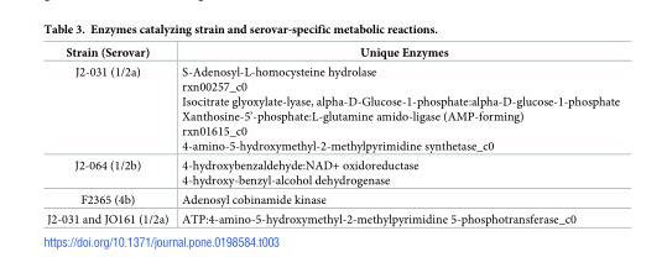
<table><thead><tr><td>Strain (Serovar)</td><td>Unique Enzymes</td></tr></thead><tbody><tr><td>J2-031 (1/2a)</td><td>S-Adenosyl-L-homocysteine hydrolase rxn00257_c0 Isocitrate glyoxylate-lyase, alpha-D-Glucose-1-phosphate:alpha-D-glucose-1-phosphate Xanthosine-5’-phosphate:L-glutamine amido-ligase (AMP-forming) rxn01615_c0 4-amino-5-hydroxymethyl-2-methylpyrimidine synthetase_c0</td></tr><tr><td>J2-064 (1/2b)</td><td>4-hydroxybenzaldehyde:NAD+ oxidoreductase 4-hydroxy-benzyl-alcohol dehydrogenase</td></tr><tr><td>F2365 (4b)</td><td>Adenosyl cobinamide kinase</td></tr><tr><td>J2-031 and JO161 (1/2a)</td><td>ATP:4-amino-5-hydroxymethyl-2-methylpyrimidine 5-phosphotransferase_c0</td></tr></tbody></table>